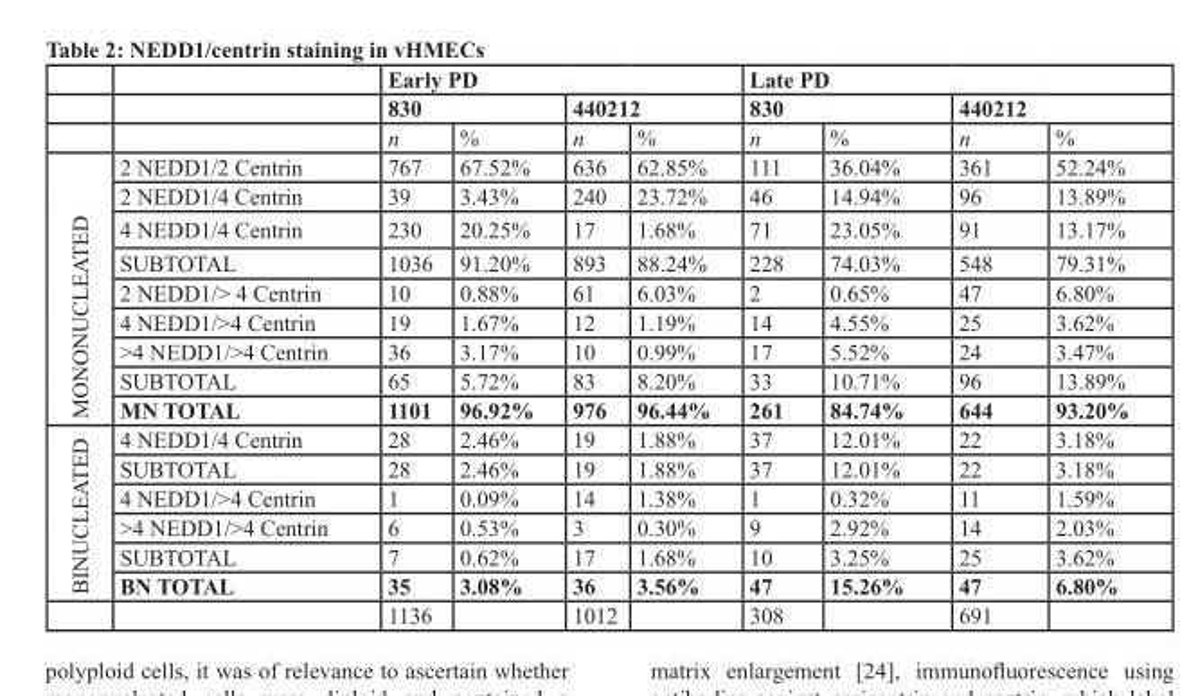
<table><thead><tr><td rowspan="3"></td><td rowspan="3"></td><td colspan="4">Early PD</td><td colspan="4">Late PD</td></tr><tr><td colspan="2">830</td><td colspan="2">440212</td><td colspan="2">830</td><td colspan="2">440212</td></tr><tr><td>n</td><td>%</td><td>n</td><td>%</td><td>n</td><td>%</td><td>n</td><td>%</td></tr></thead><tbody><tr><td rowspan="9">MONONUCLEATED</td><td>2 NEDD1/2 Centrin</td><td>767</td><td>67.52%</td><td>636</td><td>62.85%</td><td>111</td><td>36.04%</td><td>361</td><td>52.24%</td></tr><tr><td>2 NEDD1/4 Centrin</td><td>39</td><td>3.43%</td><td>240</td><td>23.72%</td><td>46</td><td>14.94%</td><td>96</td><td>13.89%</td></tr><tr><td>4 NEDD1/4 Centrin</td><td>230</td><td>20.25%</td><td>17</td><td>1.68%</td><td>71</td><td>23.05%</td><td>91</td><td>13.17%</td></tr><tr><td>SUBTOTAL</td><td>1036</td><td>91.20%</td><td>893</td><td>88.24%</td><td>228</td><td>74.03%</td><td>548</td><td>79.31%</td></tr><tr><td>2 NEDD1/&gt; 4 Centrin</td><td>10</td><td>0.88%</td><td>61</td><td>6.03%</td><td>2</td><td>0.65%</td><td>47</td><td>6.80%</td></tr><tr><td>4 NEDD1/&gt;4 Centrin</td><td>19</td><td>1.67%</td><td>12</td><td>1.19%</td><td>14</td><td>4.55%</td><td>25</td><td>3.62%</td></tr><tr><td>&gt;4 NEDD1/&gt;4 Centrin</td><td>36</td><td>3.17%</td><td>10</td><td>0.99%</td><td>17</td><td>5.52%</td><td>24</td><td>3.47%</td></tr><tr><td>SUBTOTAL</td><td>65</td><td>5.72%</td><td>83</td><td>8.20%</td><td>33</td><td>10.71%</td><td>96</td><td>13.89%</td></tr><tr><td>MN TOTAL</td><td>1101</td><td>96.92%</td><td>976</td><td>96.44%</td><td>261</td><td>84.74%</td><td>644</td><td>93.20%</td></tr><tr><td rowspan="7">BINUCLEATED</td><td>4 NEDD1/4 Centrin</td><td>28</td><td>2.46%</td><td>19</td><td>1.88%</td><td>37</td><td>12.01%</td><td>22</td><td>3.18%</td></tr><tr><td>SUBTOTAL</td><td>28</td><td>2.46%</td><td>19</td><td>1.88%</td><td>37</td><td>12.01%</td><td>22</td><td>3.18%</td></tr><tr><td>4 NEDD1/&gt;4 Centrin</td><td>1</td><td>0.09%</td><td>14</td><td>1.38%</td><td>1</td><td>0.32%</td><td>11</td><td>1.59%</td></tr><tr><td>&gt;4 NEDD1/&gt;4 Centrin</td><td>6</td><td>0.53%</td><td>3</td><td>0.30%</td><td>9</td><td>2.92%</td><td>14</td><td>2.03%</td></tr><tr><td>SUBTOTAL</td><td>7</td><td>0.62%</td><td>17</td><td>1.68%</td><td>10</td><td>3.25%</td><td>25</td><td>3.62%</td></tr><tr><td>BN TOTAL</td><td>35</td><td>3.08%</td><td>36</td><td>3.56%</td><td>47</td><td>15.26%</td><td>47</td><td>6.80%</td></tr><tr><td></td><td>1136</td><td></td><td>1012</td><td></td><td>308</td><td></td><td>691</td><td></td></tr></tbody></table>